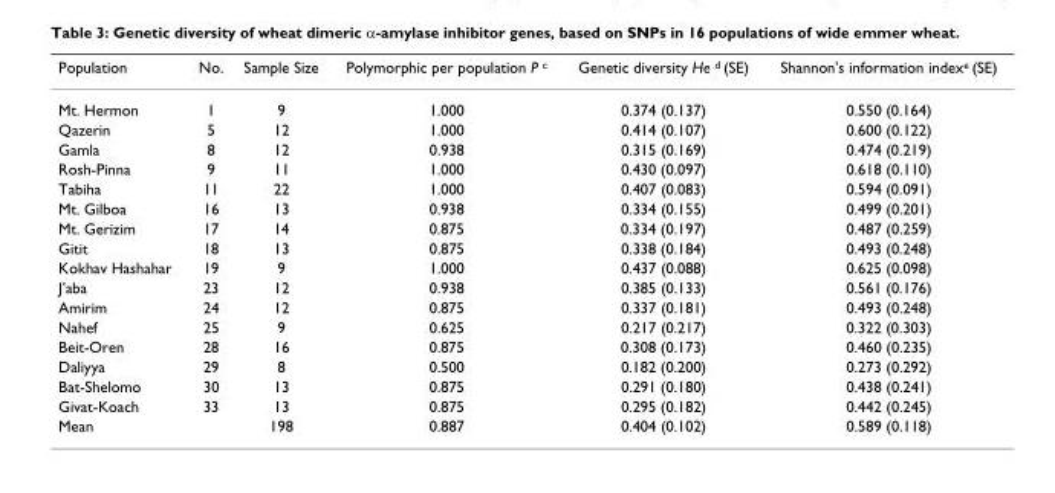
<table><thead><tr><td>Population</td><td>No.</td><td>Sample Size</td><td>Polymorphic per population P <sup>c</sup></td><td>Genetic diversity He <sup>d</sup> (SE)</td><td>Shannon&#x27;s information index<sup>e</sup> (SE)</td></tr></thead><tbody><tr><td>Mt. Hermon</td><td>1</td><td>9</td><td>1.000</td><td>0.374 (0.137)</td><td>0.550 (0.164)</td></tr><tr><td>Qazerin</td><td>5</td><td>12</td><td>1.000</td><td>0.414 (0.107)</td><td>0.600 (0.122)</td></tr><tr><td>Gamla</td><td>8</td><td>12</td><td>0.938</td><td>0.315 (0.169)</td><td>0.474 (0.219)</td></tr><tr><td>Rosh-Pinna</td><td>9</td><td>11</td><td>1.000</td><td>0.430 (0.097)</td><td>0.618 (0.110)</td></tr><tr><td>Tabiha</td><td>11</td><td>22</td><td>1.000</td><td>0.407 (0.083)</td><td>0.594 (0.091)</td></tr><tr><td>Mt. Gilboa</td><td>16</td><td>13</td><td>0.938</td><td>0.334 (0.155)</td><td>0.499 (0.201)</td></tr><tr><td>Mt. Gerizim</td><td>17</td><td>14</td><td>0.875</td><td>0.334 (0.197)</td><td>0.487 (0.259)</td></tr><tr><td>Gitit</td><td>18</td><td>13</td><td>0.875</td><td>0.338 (0.184)</td><td>0.493 (0.248)</td></tr><tr><td>Kokhav Hashahar</td><td>19</td><td>9</td><td>1.000</td><td>0.437 (0.088)</td><td>0.625 (0.098)</td></tr><tr><td>J&#x27;aba</td><td>23</td><td>12</td><td>0.938</td><td>0.385 (0.133)</td><td>0.561 (0.176)</td></tr><tr><td>Amirim</td><td>24</td><td>12</td><td>0.875</td><td>0.337 (0.181)</td><td>0.493 (0.248)</td></tr><tr><td>Nahef</td><td>25</td><td>9</td><td>0.625</td><td>0.217 (0.217)</td><td>0.322 (0.303)</td></tr><tr><td>Beit-Oren</td><td>28</td><td>16</td><td>0.875</td><td>0.308 (0.173)</td><td>0.460 (0.235)</td></tr><tr><td>Daliyya</td><td>29</td><td>8</td><td>0.500</td><td>0.182 (0.200)</td><td>0.273 (0.292)</td></tr><tr><td>Bat-Shelomo</td><td>30</td><td>13</td><td>0.875</td><td>0.291 (0.180)</td><td>0.438 (0.241)</td></tr><tr><td>Givat-Koach</td><td>33</td><td>13</td><td>0.875</td><td>0.295 (0.182)</td><td>0.442 (0.245)</td></tr><tr><td>Mean</td><td></td><td>198</td><td>0.887</td><td>0.404 (0.102)</td><td>0.589 (0.118)</td></tr></tbody></table>